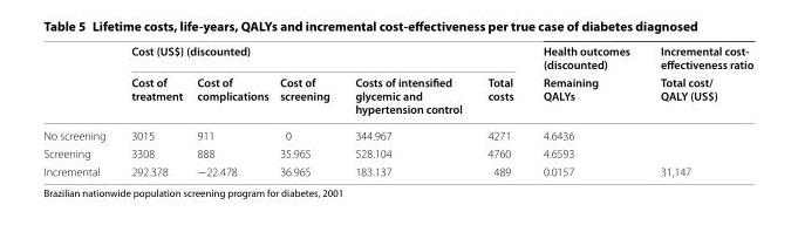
<table><thead><tr><td rowspan="2"></td><td colspan="5">Cost (US$) (discounted)</td><td rowspan="2">Health outcomes (discounted) Remaining QALYs</td><td rowspan="2">Incremental cost‑ effectiveness ratio Total cost/ QALY (US$)</td></tr><tr><td>Cost of treatment</td><td>Cost of complications</td><td>Cost of screening</td><td>Costs of intensified glycemic and hypertension control</td><td>Total costs</td></tr></thead><tbody><tr><td>No screening</td><td>3015</td><td>911</td><td>0</td><td>344.967</td><td>4271</td><td>4.6436</td><td></td></tr><tr><td>Screening</td><td>3308</td><td>888</td><td>35.965</td><td>528.104</td><td>4760</td><td>4.6593</td><td></td></tr><tr><td>Incremental</td><td>292.378</td><td>−22.478</td><td>36.965</td><td>183.137</td><td>489</td><td>0.0157</td><td>31,147</td></tr></tbody></table>